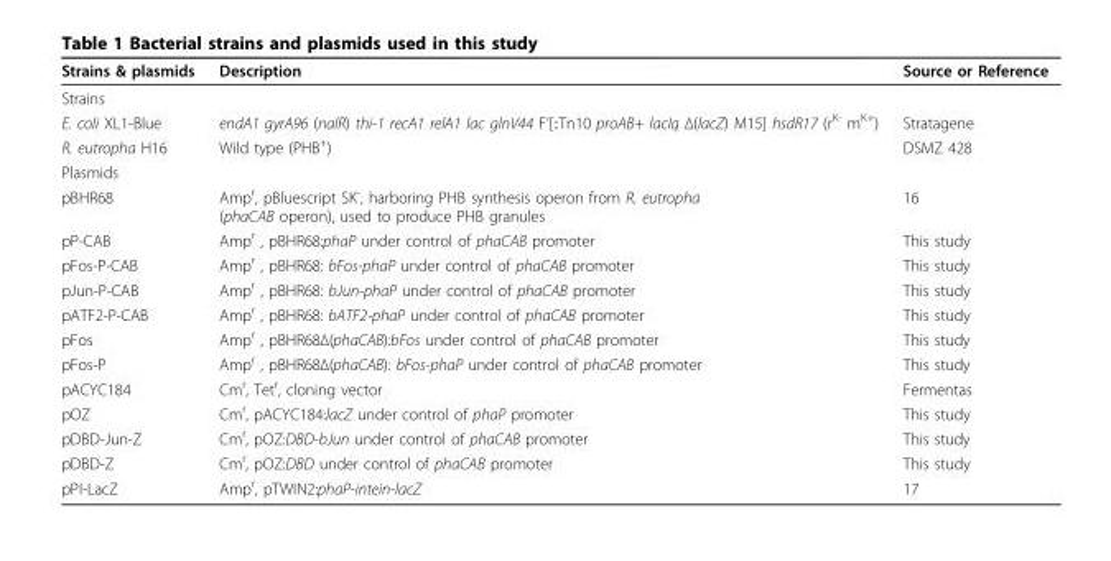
<table><thead><tr><td>Strains &amp; plasmids</td><td>Description</td><td>Source or Reference</td></tr></thead><tbody><tr><td colspan="3">Strains</td></tr><tr><td>E. coli XL1-Blue</td><td>endA1 gyrA96 (nalR) thi-1 recA1 relA1 lac glnV44 F’[::Tn10 proAB+ lacIq Δ(lacZ) M15] hsdR17 (r<sup>K-</sup> m<sup>K+</sup>)</td><td>Stratagene</td></tr><tr><td>R. eutropha H16</td><td>Wild type (PHB<sup>+</sup>)</td><td>DSMZ 428</td></tr><tr><td colspan="3">Plasmids</td></tr><tr><td>pBHR68</td><td>Amp<sup>r</sup>, pBluescript SK<sup>-</sup>, harboring PHB synthesis operon from R. eutropha (phaCAB operon), used to produce PHB granules</td><td>16</td></tr><tr><td>pP-CAB</td><td>Amp<sup>r</sup> , pBHR68:phaP under control of phaCAB promoter</td><td>This study</td></tr><tr><td>pFos-P-CAB</td><td>Amp<sup>r</sup> , pBHR68: bFos-phaP under control of phaCAB promoter</td><td>This study</td></tr><tr><td>pJun-P-CAB</td><td>Amp<sup>r</sup> , pBHR68: bJun-phaP under control of phaCAB promoter</td><td>This study</td></tr><tr><td>pATF2-P-CAB</td><td>Amp<sup>r</sup> , pBHR68: bATF2-phaP under control of phaCAB promoter</td><td>This study</td></tr><tr><td>pFos</td><td>Amp<sup>r</sup> , pBHR68Δ(phaCAB):bFos under control of phaCAB promoter</td><td>This study</td></tr><tr><td>pFos-P</td><td>Amp<sup>r</sup> , pBHR68Δ(phaCAB): bFos-phaP under control of phaCAB promoter</td><td>This study</td></tr><tr><td>pACYC184</td><td>Cm<sup>r</sup>, Tet<sup>r</sup>, cloning vector</td><td>Fermentas</td></tr><tr><td>pOZ</td><td>Cm<sup>r</sup>, pACYC184:lacZ under control of phaP promoter</td><td>This study</td></tr><tr><td>pDBD-Jun-Z</td><td>Cm<sup>r</sup>, pOZ:DBD-bJun under control of phaCAB promoter</td><td>This study</td></tr><tr><td>pDBD-Z</td><td>Cm<sup>r</sup>, pOZ:DBD under control of phaCAB promoter</td><td>This study</td></tr><tr><td>pPI-LacZ</td><td>Amp<sup>r</sup>, pTWIN2:phaP-intein-lacZ</td><td>17</td></tr></tbody></table>